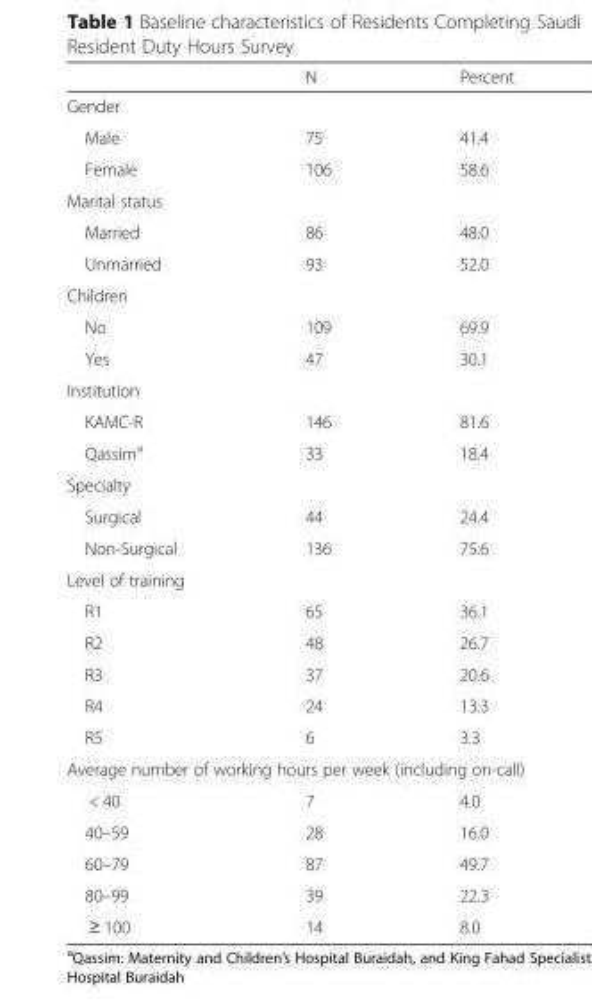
<table><thead><tr><td></td><td>N</td><td>Percent</td></tr></thead><tbody><tr><td colspan="3">Gender</td></tr><tr><td>Male</td><td>75</td><td>41.4</td></tr><tr><td>Female</td><td>106</td><td>58.6</td></tr><tr><td colspan="3">Marital status</td></tr><tr><td>Married</td><td>86</td><td>48.0</td></tr><tr><td>Unmarried</td><td>93</td><td>52.0</td></tr><tr><td colspan="3">Children</td></tr><tr><td>No</td><td>109</td><td>69.9</td></tr><tr><td>Yes</td><td>47</td><td>30.1</td></tr><tr><td colspan="3">Institution</td></tr><tr><td>KAMC-R</td><td>146</td><td>81.6</td></tr><tr><td>Qassim<sup>a</sup></td><td>33</td><td>18.4</td></tr><tr><td colspan="3">Specialty</td></tr><tr><td>Surgical</td><td>44</td><td>24.4</td></tr><tr><td>Non-Surgical</td><td>136</td><td>75.6</td></tr><tr><td colspan="3">Level of training</td></tr><tr><td>R1</td><td>65</td><td>36.1</td></tr><tr><td>R2</td><td>48</td><td>26.7</td></tr><tr><td>R3</td><td>37</td><td>20.6</td></tr><tr><td>R4</td><td>24</td><td>13.3</td></tr><tr><td>R5</td><td>6</td><td>3.3</td></tr><tr><td colspan="3">Average number of working hours per week (including on-call)</td></tr><tr><td>&lt; 40</td><td>7</td><td>4.0</td></tr><tr><td>40–59</td><td>28</td><td>16.0</td></tr><tr><td>60–79</td><td>87</td><td>49.7</td></tr><tr><td>80–99</td><td>39</td><td>22.3</td></tr><tr><td>≥ 100</td><td>14</td><td>8.0</td></tr></tbody></table>